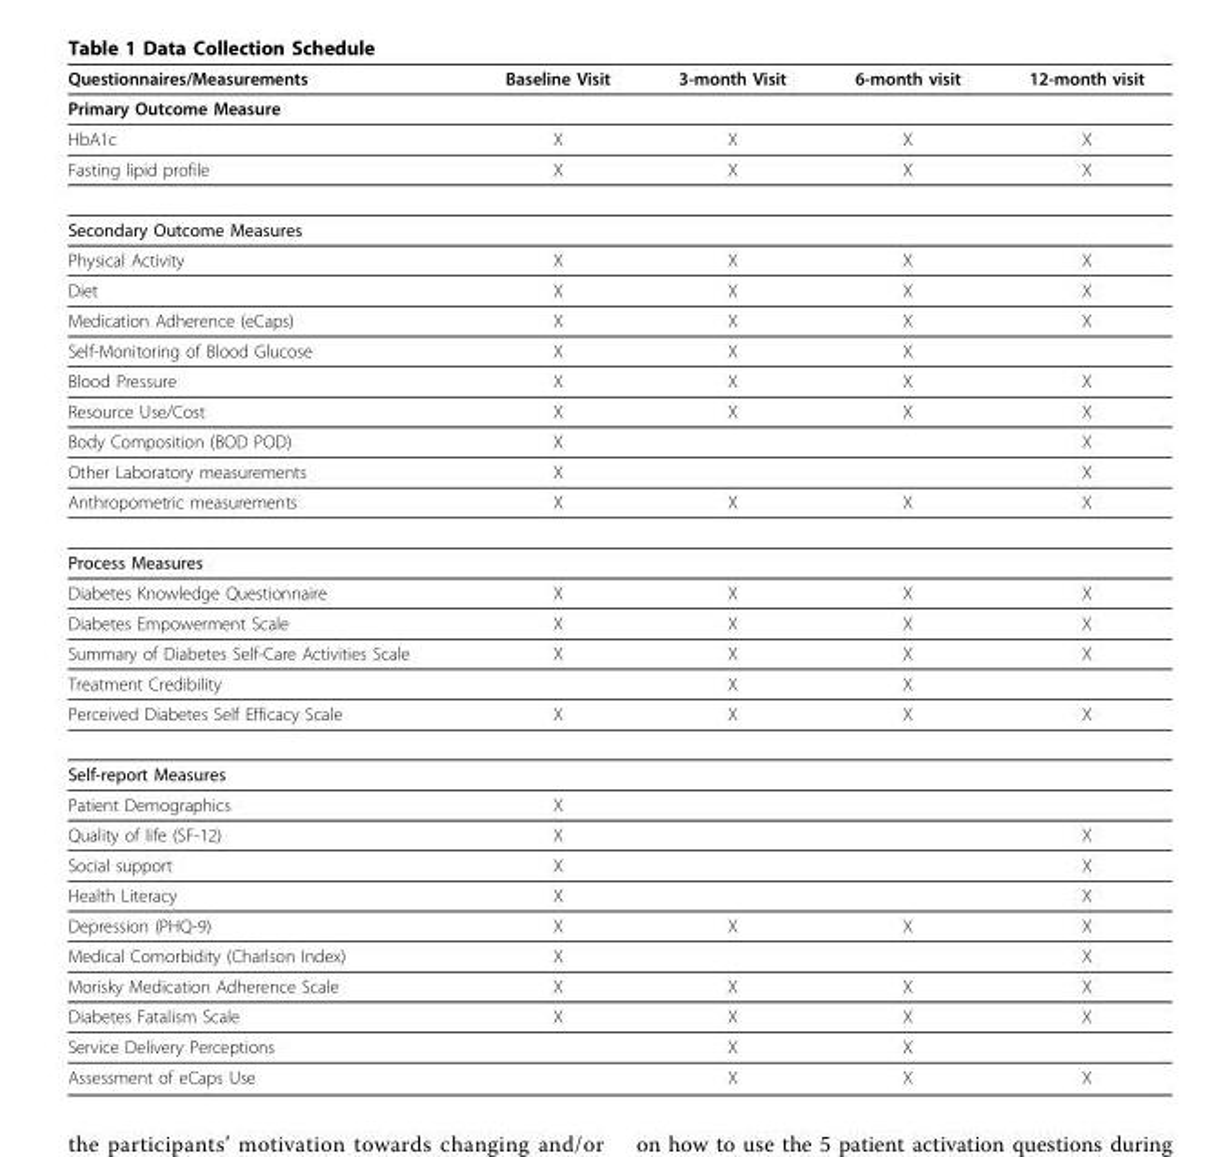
<table><thead><tr><td>Questionnaires/Measurements</td><td>Baseline Visit</td><td>3-month Visit</td><td>6-month visit</td><td>12-month visit</td></tr></thead><tbody><tr><td colspan="5">Primary Outcome Measure</td></tr><tr><td>HbA1c</td><td>X</td><td>X</td><td>X</td><td>X</td></tr><tr><td>Fasting lipid profile</td><td>X</td><td>X</td><td>X</td><td>X</td></tr><tr><td colspan="5">Secondary Outcome Measures</td></tr><tr><td>Physical Activity</td><td>X</td><td>X</td><td>X</td><td>X</td></tr><tr><td>Diet</td><td>X</td><td>X</td><td>X</td><td>X</td></tr><tr><td>Medication Adherence (eCaps)</td><td>X</td><td>X</td><td>X</td><td>X</td></tr><tr><td>Self-Monitoring of Blood Glucose</td><td>X</td><td>X</td><td>X</td><td></td></tr><tr><td>Blood Pressure</td><td>X</td><td>X</td><td>X</td><td>X</td></tr><tr><td>Resource Use/Cost</td><td>X</td><td>X</td><td>X</td><td>X</td></tr><tr><td>Body Composition (BOD POD)</td><td>X</td><td></td><td></td><td>X</td></tr><tr><td>Other Laboratory measurements</td><td>X</td><td></td><td></td><td>X</td></tr><tr><td>Anthropometric measurements</td><td>X</td><td>X</td><td>X</td><td>X</td></tr><tr><td colspan="5">Process Measures</td></tr><tr><td>Diabetes Knowledge Questionnaire</td><td>X</td><td>X</td><td>X</td><td>X</td></tr><tr><td>Diabetes Empowerment Scale</td><td>X</td><td>X</td><td>X</td><td>X</td></tr><tr><td>Summary of Diabetes Self-Care Activities Scale</td><td>X</td><td>X</td><td>X</td><td>X</td></tr><tr><td>Treatment Credibility</td><td></td><td>X</td><td>X</td><td></td></tr><tr><td>Perceived Diabetes Self Efficacy Scale</td><td>X</td><td>X</td><td>X</td><td>X</td></tr><tr><td colspan="5">Self-report Measures</td></tr><tr><td>Patient Demographics</td><td>X</td><td></td><td></td><td></td></tr><tr><td>Quality of life (SF-12)</td><td>X</td><td></td><td></td><td>X</td></tr><tr><td>Social support</td><td>X</td><td></td><td></td><td>X</td></tr><tr><td>Health Literacy</td><td>X</td><td></td><td></td><td>X</td></tr><tr><td>Depression (PHQ-9)</td><td>X</td><td>X</td><td>X</td><td>X</td></tr><tr><td>Medical Comorbidity (Charlson Index)</td><td>X</td><td></td><td></td><td>X</td></tr><tr><td>Morisky Medication Adherence Scale</td><td>X</td><td>X</td><td>X</td><td>X</td></tr><tr><td>Diabetes Fatalism Scale</td><td>X</td><td>X</td><td>X</td><td>X</td></tr><tr><td>Service Delivery Perceptions</td><td></td><td>X</td><td>X</td><td></td></tr><tr><td>Assessment of eCaps Use</td><td></td><td>X</td><td>X</td><td>X</td></tr></tbody></table>